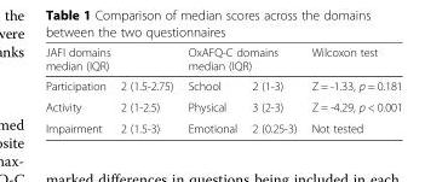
<table><thead><tr><td colspan="2">JAFI domains median (IQR)</td><td colspan="2">OxAFQ-C domains median (IQR)</td><td rowspan="2">Wilcoxon test Z = -1.33, p = 0.181</td></tr><tr><td>Participation</td><td>2 (1.5-2.75)</td><td>School</td><td>2 (1-3)</td></tr></thead><tbody><tr><td>Activity</td><td>2 (1-2.5)</td><td>Physical</td><td>3 (2-3)</td><td>Z = -4.29, p &lt; 0.001</td></tr><tr><td>Impairment</td><td>2 (1.5-3)</td><td>Emotional</td><td>2 (0.25-3)</td><td>Not tested</td></tr></tbody></table>